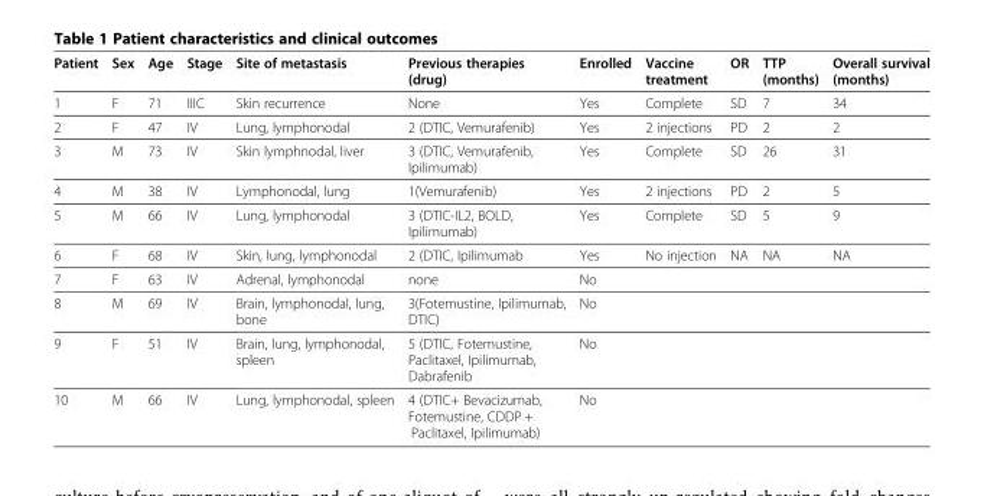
<table><thead><tr><td>Patient</td><td>Sex</td><td>Age</td><td>Stage</td><td>Site of metastasis</td><td>Previous therapies (drug)</td><td>Enrolled</td><td>Vaccine treatment</td><td>OR</td><td>TTP (months)</td><td>Overall survival (months)</td></tr></thead><tbody><tr><td>1</td><td>F</td><td>71</td><td>IIIC</td><td>Skin recurrence</td><td>None</td><td>Yes</td><td>Complete</td><td>SD</td><td>7</td><td>34</td></tr><tr><td>2</td><td>F</td><td>47</td><td>IV</td><td>Lung, lymphonodal</td><td>2 (DTIC, Vemurafenib)</td><td>Yes</td><td>2 injections</td><td>PD</td><td>2</td><td>2</td></tr><tr><td>3</td><td>M</td><td>73</td><td>IV</td><td>Skin lymphnodal, liver</td><td>3 (DTIC, Vemurafenib, Ipilimumab)</td><td>Yes</td><td>Complete</td><td>SD</td><td>26</td><td>31</td></tr><tr><td>4</td><td>M</td><td>38</td><td>IV</td><td>Lymphonodal, lung</td><td>1(Vemurafenib)</td><td>Yes</td><td>2 injections</td><td>PD</td><td>2</td><td>5</td></tr><tr><td>5</td><td>M</td><td>66</td><td>IV</td><td>Lung, lymphonodal</td><td>3 (DTIC-IL2, BOLD, Ipilimumab)</td><td>Yes</td><td>Complete</td><td>SD</td><td>5</td><td>9</td></tr><tr><td>6</td><td>F</td><td>68</td><td>IV</td><td>Skin, lung, lymphonodal</td><td>2 (DTIC, Ipilimumab</td><td>Yes</td><td>No injection</td><td>NA</td><td>NA</td><td>NA</td></tr><tr><td>7</td><td>F</td><td>63</td><td>IV</td><td>Adrenal, lymphonodal</td><td>none</td><td colspan="5">No</td></tr><tr><td>8</td><td>M</td><td>69</td><td>IV</td><td>Brain, lymphonodal, lung, bone</td><td>3(Fotemustine, Ipilimumab, DTIC)</td><td colspan="5">No</td></tr><tr><td>9</td><td>F</td><td>51</td><td>IV</td><td>Brain, lung, lymphonodal, spleen</td><td>5 (DTIC, Fotemustine, Paclitaxel, Ipilimumab, Dabrafenib</td><td colspan="5">No</td></tr><tr><td>10</td><td>M</td><td>66</td><td>IV</td><td>Lung, lymphonodal, spleen</td><td>4 (DTIC+ Bevacizumab, Fotemustine, CDDP + Paclitaxel, Ipilimumab)</td><td colspan="5">No</td></tr></tbody></table>